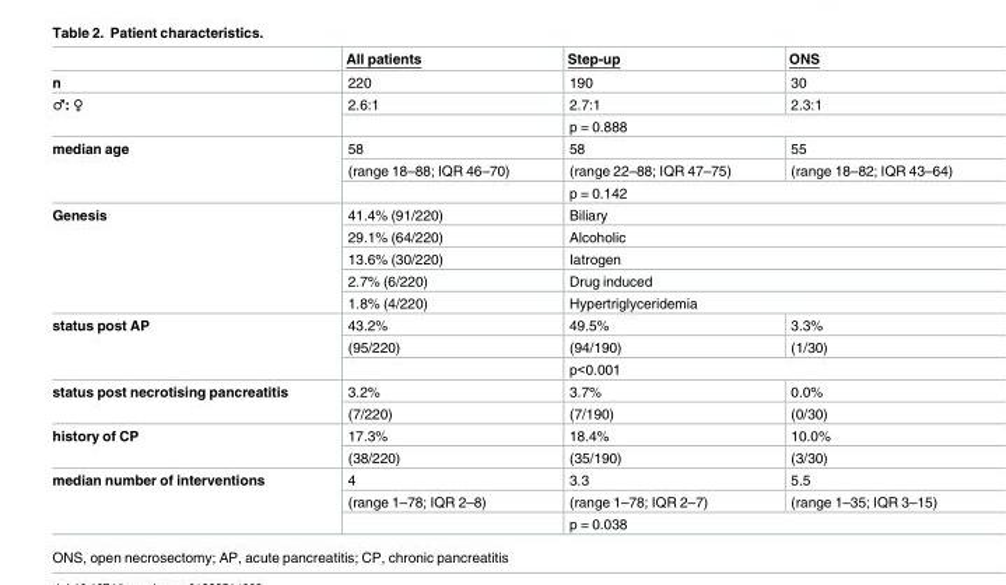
<table><thead><tr><td></td><td>All patients</td><td>Step-up</td><td>ONS</td></tr></thead><tbody><tr><td>n</td><td>220</td><td>190</td><td>30</td></tr><tr><td rowspan="2">♂: ♀</td><td>2.6:1</td><td>2.7:1</td><td>2.3:1</td></tr><tr><td></td><td colspan="2">p = 0.888</td></tr><tr><td rowspan="3">median age</td><td>58</td><td>58</td><td>55</td></tr><tr><td>(range 18–88; IQR 46–70)</td><td>(range 22–88; IQR 47–75)</td><td>(range 18–82; IQR 43–64)</td></tr><tr><td></td><td colspan="2">p = 0.142</td></tr><tr><td rowspan="5">Genesis</td><td>41.4% (91/220)</td><td colspan="2">Biliary</td></tr><tr><td>29.1% (64/220)</td><td colspan="2">Alcoholic</td></tr><tr><td>13.6% (30/220)</td><td colspan="2">Iatrogen</td></tr><tr><td>2.7% (6/220)</td><td colspan="2">Drug induced</td></tr><tr><td>1.8% (4/220)</td><td colspan="2">Hypertriglyceridemia</td></tr><tr><td rowspan="3">status post AP</td><td>43.2%</td><td>49.5%</td><td>3.3%</td></tr><tr><td>(95/220)</td><td>(94/190)</td><td>(1/30)</td></tr><tr><td></td><td colspan="2">p&lt;0.001</td></tr><tr><td rowspan="2">status post necrotising pancreatitis</td><td>3.2%</td><td>3.7%</td><td>0.0%</td></tr><tr><td>(7/220)</td><td>(7/190)</td><td>(0/30)</td></tr><tr><td rowspan="2">history of CP</td><td>17.3%</td><td>18.4%</td><td>10.0%</td></tr><tr><td>(38/220)</td><td>(35/190)</td><td>(3/30)</td></tr><tr><td rowspan="3">median number of interventions</td><td>4</td><td>3.3</td><td>5.5</td></tr><tr><td>(range 1–78; IQR 2–8)</td><td>(range 1–78; IQR 2–7)</td><td>(range 1–35; IQR 3–15)</td></tr><tr><td></td><td colspan="2">p = 0.038</td></tr></tbody></table>